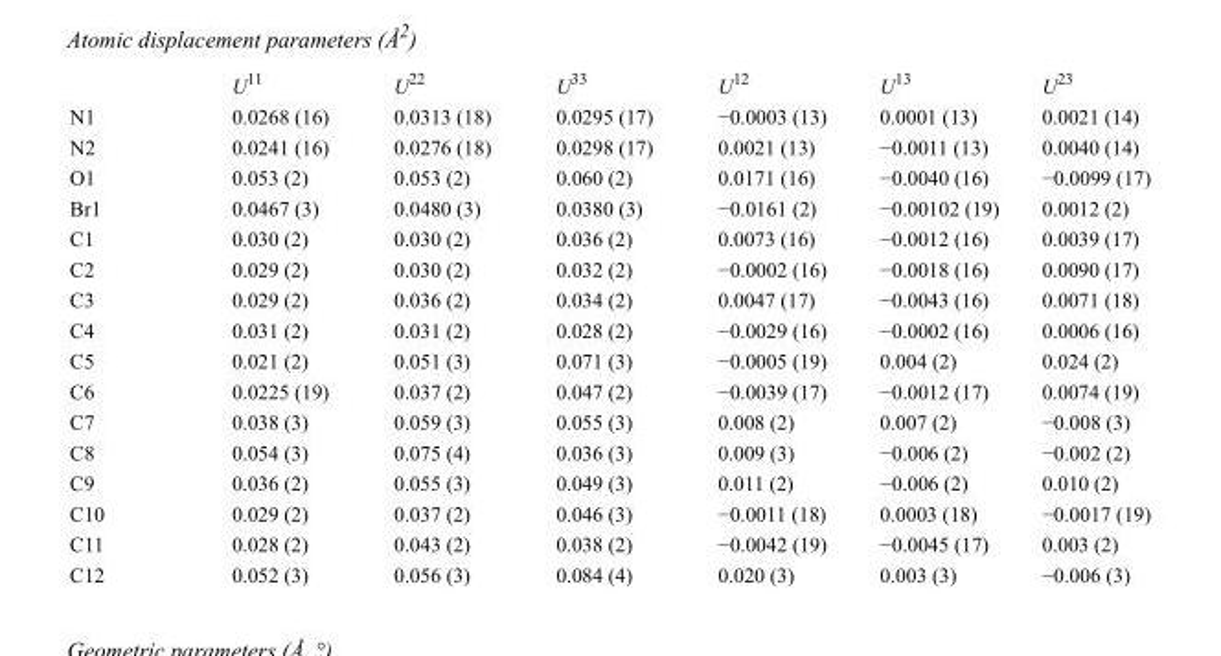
<table><thead><tr><td></td><td>U<sup>11</sup></td><td>U<sup>22</sup></td><td>U<sup>33</sup></td><td>U<sup>12</sup></td><td>U<sup>13</sup></td><td>U<sup>23</sup></td></tr></thead><tbody><tr><td>N1</td><td>0.0268 (16)</td><td>0.0313 (18)</td><td>0.0295 (17)</td><td>−0.0003 (13)</td><td>0.0001 (13)</td><td>0.0021 (14)</td></tr><tr><td>N2</td><td>0.0241 (16)</td><td>0.0276 (18)</td><td>0.0298 (17)</td><td>0.0021 (13)</td><td>−0.0011 (13)</td><td>0.0040 (14)</td></tr><tr><td>O1</td><td>0.053 (2)</td><td>0.053 (2)</td><td>0.060 (2)</td><td>0.0171 (16)</td><td>−0.0040 (16)</td><td>−0.0099 (17)</td></tr><tr><td>Br1</td><td>0.0467 (3)</td><td>0.0480 (3)</td><td>0.0380 (3)</td><td>−0.0161 (2)</td><td>−0.00102 (19)</td><td>0.0012 (2)</td></tr><tr><td>C1</td><td>0.030 (2)</td><td>0.030 (2)</td><td>0.036 (2)</td><td>0.0073 (16)</td><td>−0.0012 (16)</td><td>0.0039 (17)</td></tr><tr><td>C2</td><td>0.029 (2)</td><td>0.030 (2)</td><td>0.032 (2)</td><td>−0.0002 (16)</td><td>−0.0018 (16)</td><td>0.0090 (17)</td></tr><tr><td>C3</td><td>0.029 (2)</td><td>0.036 (2)</td><td>0.034 (2)</td><td>0.0047 (17)</td><td>−0.0043 (16)</td><td>0.0071 (18)</td></tr><tr><td>C4</td><td>0.031 (2)</td><td>0.031 (2)</td><td>0.028 (2)</td><td>−0.0029 (16)</td><td>−0.0002 (16)</td><td>0.0006 (16)</td></tr><tr><td>C5</td><td>0.021 (2)</td><td>0.051 (3)</td><td>0.071 (3)</td><td>−0.0005 (19)</td><td>0.004 (2)</td><td>0.024 (2)</td></tr><tr><td>C6</td><td>0.0225 (19)</td><td>0.037 (2)</td><td>0.047 (2)</td><td>−0.0039 (17)</td><td>−0.0012 (17)</td><td>0.0074 (19)</td></tr><tr><td>C7</td><td>0.038 (3)</td><td>0.059 (3)</td><td>0.055 (3)</td><td>0.008 (2)</td><td>0.007 (2)</td><td>−0.008 (3)</td></tr><tr><td>C8</td><td>0.054 (3)</td><td>0.075 (4)</td><td>0.036 (3)</td><td>0.009 (3)</td><td>−0.006 (2)</td><td>−0.002 (2)</td></tr><tr><td>C9</td><td>0.036 (2)</td><td>0.055 (3)</td><td>0.049 (3)</td><td>0.011 (2)</td><td>−0.006 (2)</td><td>0.010 (2)</td></tr><tr><td>C10</td><td>0.029 (2)</td><td>0.037 (2)</td><td>0.046 (3)</td><td>−0.0011 (18)</td><td>0.0003 (18)</td><td>−0.0017 (19)</td></tr><tr><td>C11</td><td>0.028 (2)</td><td>0.043 (2)</td><td>0.038 (2)</td><td>−0.0042 (19)</td><td>−0.0045 (17)</td><td>0.003 (2)</td></tr><tr><td>C12</td><td>0.052 (3)</td><td>0.056 (3)</td><td>0.084 (4)</td><td>0.020 (3)</td><td>0.003 (3)</td><td>−0.006 (3)</td></tr></tbody></table>